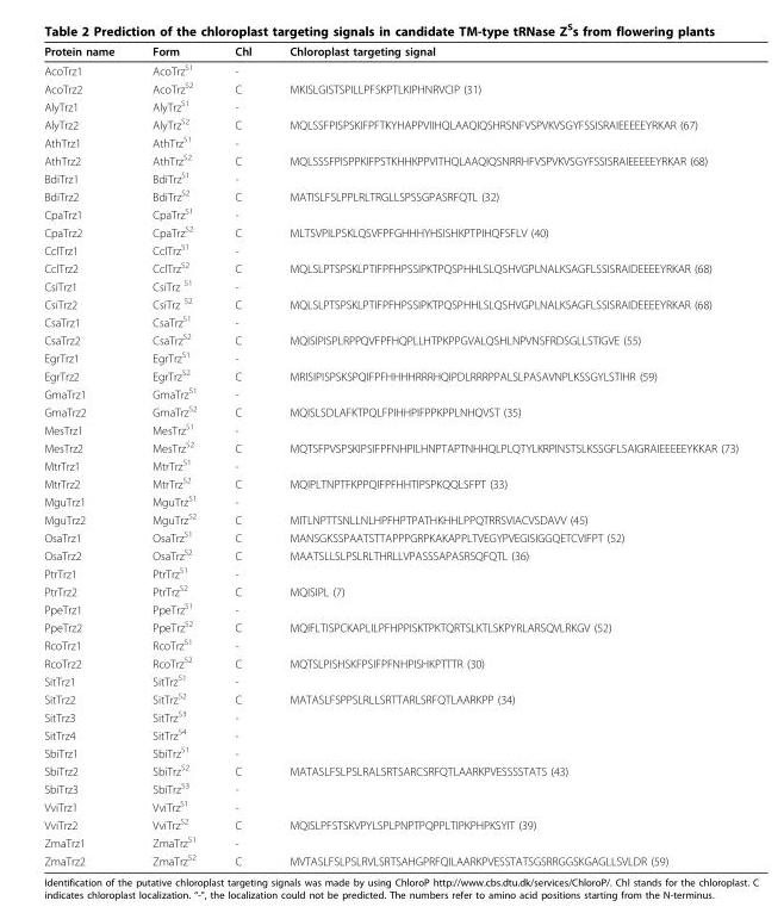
<table><thead><tr><td>Protein name</td><td>Form</td><td>Chl</td><td>Chloroplast targeting signal</td></tr></thead><tbody><tr><td>AcoTrz1</td><td>AcoTrz<sup>S1</sup></td><td>-</td><td></td></tr><tr><td>AcoTrz2</td><td>AcoTrz<sup>S2</sup></td><td>C</td><td>MKISLGISTSPILLPFSKPTLKIPHNRVCIP (31)</td></tr><tr><td>AlyTrz1</td><td>AlyTrz<sup>S1</sup></td><td>-</td><td></td></tr><tr><td>AlyTrz2</td><td>AlyTrz<sup>S2</sup></td><td>C</td><td>MQLSSFPISPSKIFPFTKYHAPPVIIHQLAAQIQSHRSNFVSPVKVSGYFSSISRAIEEEEEYRKAR (67)</td></tr><tr><td>AthTrz1</td><td>AthTrz<sup>S1</sup></td><td>-</td><td></td></tr><tr><td>AthTrz2</td><td>AthTrz<sup>S2</sup></td><td>C</td><td>MQLSSSFPISPPKIFPSTKHHKPPVITHQLAAQIQSNRRHFVSPVKVSGYFSSISRAIEEEEEYRKAR (68)</td></tr><tr><td>BdiTrz1</td><td>BdiTrz<sup>S1</sup></td><td>-</td><td></td></tr><tr><td>BdiTrz2</td><td>BdiTrz<sup>S2</sup></td><td>C</td><td>MATISLFSLPPLRLTRGLLSPSSGPASRFQTL (32)</td></tr><tr><td>CpaTrz1</td><td>CpaTrz<sup>S1</sup></td><td>-</td><td></td></tr><tr><td>CpaTrz2</td><td>CpaTrz<sup>S2</sup></td><td>C</td><td>MLTSVPILPSKLQSVFPFGHHHYHSISHKPTPIHQFSFLV (40)</td></tr><tr><td>CclTrz1</td><td>CclTrz<sup>S1</sup></td><td>-</td><td></td></tr><tr><td>CclTrz2</td><td>CclTrz<sup>S2</sup></td><td>C</td><td>MQLSLPTSPSKLPTIFPFHPSSIPKTPQSPHHLSLQSHVGPLNALKSAGFLSSISRAIDEEEEYRKAR (68)</td></tr><tr><td>CsiTrz1</td><td>CsiTrz <sup>S1</sup></td><td>-</td><td></td></tr><tr><td>CsiTrz2</td><td>CsiTrz <sup>S2</sup></td><td>C</td><td>MQLSLPTSPSKLPTIFPFHPSSIPKTPQSPHHLSLQSHVGPLNALKSAGFLSSISRAIDEEEEYRKAR (68)</td></tr><tr><td>CsaTrz1</td><td>CsaTrz<sup>S1</sup></td><td>-</td><td></td></tr><tr><td>CsaTrz2</td><td>CsaTrz<sup>S2</sup></td><td>C</td><td>MQISIPISPLRPPQVFPFHQPLLHTPKPPGVALQSHLNPVNSFRDSGLLSTIGVE (55)</td></tr><tr><td>EgrTrz1</td><td>EgrTrz<sup>S1</sup></td><td>-</td><td></td></tr><tr><td>EgrTrz2</td><td>EgrTrz<sup>S2</sup></td><td>C</td><td>MRISIPISPSKSPQIFPFHHHHRRRHQIPDLRRRPPALSLPASAVNPLKSSGYLSTIHR (59)</td></tr><tr><td>GmaTrz1</td><td>GmaTrz<sup>S1</sup></td><td>-</td><td></td></tr><tr><td>GmaTrz2</td><td>GmaTrz<sup>S2</sup></td><td>C</td><td>MQISLSDLAFKTPQLFPIHHPIFPPKPPLNHQVST (35)</td></tr><tr><td>MesTrz1</td><td>MesTrz<sup>S1</sup></td><td>-</td><td></td></tr><tr><td>MesTrz2</td><td>MesTrz<sup>S2</sup></td><td>C</td><td>MQTSFPVSPSKIPSIFPFNHPILHNPTAPTNHHQLPLQTYLKRPINSTSLKSSGFLSAIGRAIEEEEEYKKAR (73)</td></tr><tr><td>MtrTrz1</td><td>MtrTrz<sup>S1</sup></td><td>-</td><td></td></tr><tr><td>MtrTrz2</td><td>MtrTrz<sup>S2</sup></td><td>C</td><td>MQIPLTNPTFKPPQIFPFHHTIPSPKQQLSFPT (33)</td></tr><tr><td>MguTrz1</td><td>MguTrz<sup>S1</sup></td><td>-</td><td></td></tr><tr><td>MguTrz2</td><td>MguTrz<sup>S2</sup></td><td>C</td><td>MITLNPTTSNLLNLHPFHPTPATHKHHLPPQTRRSVIACVSDAVV (45)</td></tr><tr><td>OsaTrz1</td><td>OsaTrz<sup>S1</sup></td><td>C</td><td>MANSGKSSPAATSTTAPPPGRPKAKAPPLTVEGYPVEGISIGGQETCVIFPT (52)</td></tr><tr><td>OsaTrz2</td><td>OsaTrz<sup>S2</sup></td><td>C</td><td>MAATSLLSLPSLRLTHRLLVPASSSAPASRSQFQTL (36)</td></tr><tr><td>PtrTrz1</td><td>PtrTrz<sup>S1</sup></td><td>-</td><td></td></tr><tr><td>PtrTrz2</td><td>PtrTrz<sup>S2</sup></td><td>C</td><td>MQISIPL (7)</td></tr><tr><td>PpeTrz1</td><td>PpeTrz<sup>S1</sup></td><td>-</td><td></td></tr><tr><td>PpeTrz2</td><td>PpeTrz<sup>S2</sup></td><td>C</td><td>MQIFLTISPCKAPLILPFHPPISKTPKTQRTSLKTLSKPYRLARSQVLRKGV (52)</td></tr><tr><td>RcoTrz1</td><td>RcoTrz<sup>S1</sup></td><td>-</td><td></td></tr><tr><td>RcoTrz2</td><td>RcoTrz<sup>S2</sup></td><td>C</td><td>MQTSLPISHSKFPSIFPFNHPISHKPTTTR (30)</td></tr><tr><td>SitTrz1</td><td>SitTrz<sup>S1</sup></td><td>-</td><td></td></tr><tr><td>SitTrz2</td><td>SitTrz<sup>S2</sup></td><td>C</td><td>MATASLFSPPSLRLLSRTTARLSRFQTLAARKPP (34)</td></tr><tr><td>SitTrz3</td><td>SitTrz<sup>S3</sup></td><td>-</td><td></td></tr><tr><td>SitTrz4</td><td>SitTrz<sup>S4</sup></td><td>-</td><td></td></tr><tr><td>SbiTrz1</td><td>SbiTrz<sup>S1</sup></td><td>-</td><td></td></tr><tr><td>SbiTrz2</td><td>SbiTrz<sup>S2</sup></td><td>C</td><td>MATASLFSLPSLRALSRTSARCSRFQTLAARKPVESSSSTATS (43)</td></tr><tr><td>SbiTrz3</td><td>SbiTrz<sup>S3</sup></td><td>-</td><td></td></tr><tr><td>VviTrz1</td><td>VviTrz<sup>S1</sup></td><td>-</td><td></td></tr><tr><td>VviTrz2</td><td>VviTrz<sup>S2</sup></td><td>C</td><td>MQISLPFSTSKVPYLSPLPNPTPQPPLTIPKPHPKSYIT (39)</td></tr><tr><td>ZmaTrz1</td><td>ZmaTrz<sup>S1</sup></td><td>-</td><td></td></tr><tr><td>ZmaTrz2</td><td>ZmaTrz<sup>S2</sup></td><td>C</td><td>MVTASLFSLPSLRVLSRTSAHGPRFQILAARKPVESSTATSGSRRGGSKGAGLLSVLDR (59)</td></tr></tbody></table>